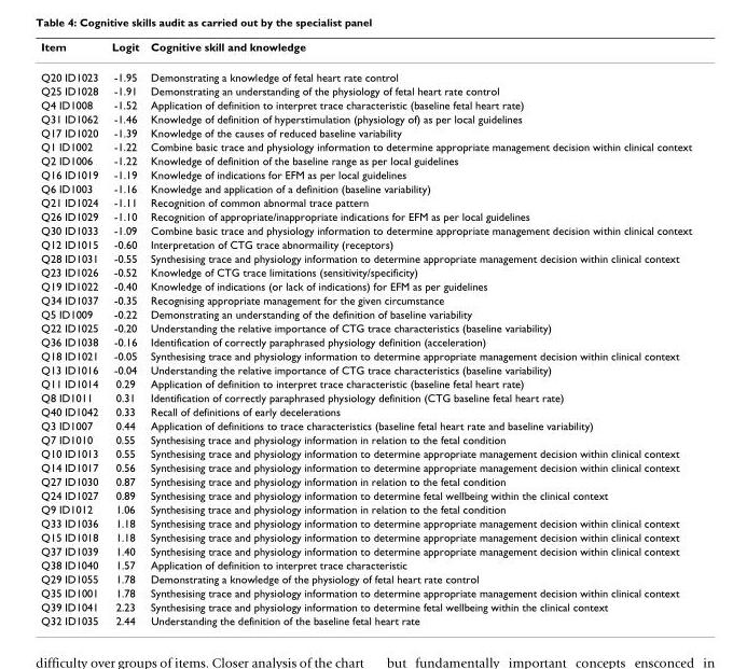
<table><thead><tr><td>Item</td><td>Logit</td><td>Cognitive skill and knowledge</td></tr></thead><tbody><tr><td>Q20 ID1023</td><td>-1.95</td><td>Demonstrating a knowledge of fetal heart rate control</td></tr><tr><td>Q25 ID1028</td><td>-1.91</td><td>Demonstrating an understanding of the physiology of fetal heart rate control</td></tr><tr><td>Q4 ID1008</td><td>-1.52</td><td>Application of definition to interpret trace characteristic (baseline fetal heart rate)</td></tr><tr><td>Q31 ID1062</td><td>-1.46</td><td>Knowledge of definition of hyperstimulation (physiology of) as per local guidelines</td></tr><tr><td>Q17 ID1020</td><td>-1.39</td><td>Knowledge of the causes of reduced baseline variability</td></tr><tr><td>Q1 ID1002</td><td>-1.22</td><td>Combine basic trace and physiology information to determine appropriate management decision within clinical context</td></tr><tr><td>Q2 ID1006</td><td>-1.22</td><td>Knowledge of definition of the baseline range as per local guidelines</td></tr><tr><td>Q16 ID1019</td><td>-1.19</td><td>Knowledge of indications for EFM as per local guidelines</td></tr><tr><td>Q6 ID1003</td><td>-1.16</td><td>Knowledge and application of a definition (baseline variability)</td></tr><tr><td>Q21 ID1024</td><td>-1.11</td><td>Recognition of common abnormal trace pattern</td></tr><tr><td>Q26 ID1029</td><td>-1.10</td><td>Recognition of appropriate/inappropriate indications for EFM as per local guidelines</td></tr><tr><td>Q30 ID1033</td><td>-1.09</td><td>Combine basic trace and physiology information to determine appropriate management decision within clinical context</td></tr><tr><td>Q12 ID1015</td><td>-0.60</td><td>Interpretation of CTG trace abnormaility (receptors)</td></tr><tr><td>Q28 ID1031</td><td>-0.55</td><td>Synthesising trace and physiology information to determine appropriate management decision within clinical context</td></tr><tr><td>Q23 ID1026</td><td>-0.52</td><td>Knowledge of CTG trace limitations (sensitivity/specificity)</td></tr><tr><td>Q19 ID1022</td><td>-0.40</td><td>Knowledge of indications (or lack of indications) for EFM as per guidelines</td></tr><tr><td>Q34 ID1037</td><td>-0.35</td><td>Recognising appropriate management for the given circumstance</td></tr><tr><td>Q5 ID1009</td><td>-0.22</td><td>Demonstrating an understanding of the definition of baseline variability</td></tr><tr><td>Q22 ID1025</td><td>-0.20</td><td>Understanding the relative importance of CTG trace characteristics (baseline variability)</td></tr><tr><td>Q36 ID1038</td><td>-0.16</td><td>Identification of correctly paraphrased physiology definition (acceleration)</td></tr><tr><td>Q18 ID1021</td><td>-0.05</td><td>Synthesising trace and physiology information to determine appropriate management decision within clinical context</td></tr><tr><td>Q13 ID1016</td><td>-0.04</td><td>Understanding the relative importance of CTG trace characteristics (baseline variability)</td></tr><tr><td>Q11 ID1014</td><td>0.29</td><td>Application of definition to interpret trace characteristic (baseline fetal heart rate)</td></tr><tr><td>Q8 ID1011</td><td>0.31</td><td>Identification of correctly paraphrased physiology definition (CTG baseline fetal heart rate)</td></tr><tr><td>Q40 ID1042</td><td>0.33</td><td>Recall of definitions of early decelerations</td></tr><tr><td>Q3 ID1007</td><td>0.44</td><td>Application of definitions to trace characteristics (baseline fetal heart rate and baseline variability)</td></tr><tr><td>Q7 ID1010</td><td>0.55</td><td>Synthesising trace and physiology information in relation to the fetal condition</td></tr><tr><td>Q10 ID1013</td><td>0.55</td><td>Synthesising trace and physiology information to determine appropriate management decision within clinical context</td></tr><tr><td>Q14 ID1017</td><td>0.56</td><td>Synthesising trace and physiology information to determine appropriate management decision within clinical context</td></tr><tr><td>Q27 ID1030</td><td>0.87</td><td>Synthesising trace and physiology information in relation to the fetal condition</td></tr><tr><td>Q24 ID1027</td><td>0.89</td><td>Synthesising trace and physiology information to determine fetal wellbeing within the clinical context</td></tr><tr><td>Q9 ID1012</td><td>1.06</td><td>Synthesising trace and physiology information in relation to the fetal condition</td></tr><tr><td>Q33 ID1036</td><td>1.18</td><td>Synthesising trace and physiology information to determine appropriate management decision within clinical context</td></tr><tr><td>Q15 ID1018</td><td>1.18</td><td>Synthesising trace and physiology information to determine appropriate management decision within clinical context</td></tr><tr><td>Q37 ID1039</td><td>1.40</td><td>Synthesising trace and physiology information to determine appropriate management decision within clinical context</td></tr><tr><td>Q38 ID1040</td><td>1.57</td><td>Application of definition to interpret trace characteristic</td></tr><tr><td>Q29 ID1055</td><td>1.78</td><td>Demonstrating a knowledge of the physiology of fetal heart rate control</td></tr><tr><td>Q35 ID1001</td><td>1.78</td><td>Synthesising trace and physiology information to determine appropriate management decision within clinical context</td></tr><tr><td>Q39 ID1041</td><td>2.23</td><td>Synthesising trace and physiology information to determine fetal wellbeing within the clinical context</td></tr><tr><td>Q32 ID1035</td><td>2.44</td><td>Understanding the definition of the baseline fetal heart rate</td></tr></tbody></table>